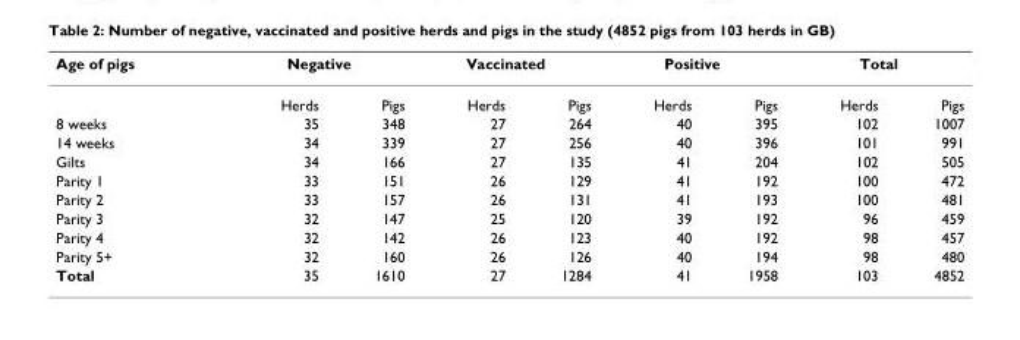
<table><thead><tr><td rowspan="2">Age of pigs</td><td colspan="2">Negative</td><td colspan="2">Vaccinated</td><td colspan="2">Positive</td><td colspan="2">Total</td></tr><tr><td>Herds</td><td>Pigs</td><td>Herds</td><td>Pigs</td><td>Herds</td><td>Pigs</td><td>Herds</td><td>Pigs</td></tr></thead><tbody><tr><td>8 weeks</td><td>35</td><td>348</td><td>27</td><td>264</td><td>40</td><td>395</td><td>102</td><td>1007</td></tr><tr><td>14 weeks</td><td>34</td><td>339</td><td>27</td><td>256</td><td>40</td><td>396</td><td>101</td><td>991</td></tr><tr><td>Gilts</td><td>34</td><td>166</td><td>27</td><td>135</td><td>41</td><td>204</td><td>102</td><td>505</td></tr><tr><td>Parity 1</td><td>33</td><td>151</td><td>26</td><td>129</td><td>41</td><td>192</td><td>100</td><td>472</td></tr><tr><td>Parity 2</td><td>33</td><td>157</td><td>26</td><td>131</td><td>41</td><td>193</td><td>100</td><td>481</td></tr><tr><td>Parity 3</td><td>32</td><td>147</td><td>25</td><td>120</td><td>39</td><td>192</td><td>96</td><td>459</td></tr><tr><td>Parity 4</td><td>32</td><td>142</td><td>26</td><td>123</td><td>40</td><td>192</td><td>98</td><td>457</td></tr><tr><td>Parity 5+</td><td>32</td><td>160</td><td>26</td><td>126</td><td>40</td><td>194</td><td>98</td><td>480</td></tr><tr><td>Total</td><td>35</td><td>1610</td><td>27</td><td>1284</td><td>41</td><td>1958</td><td>103</td><td>4852</td></tr></tbody></table>